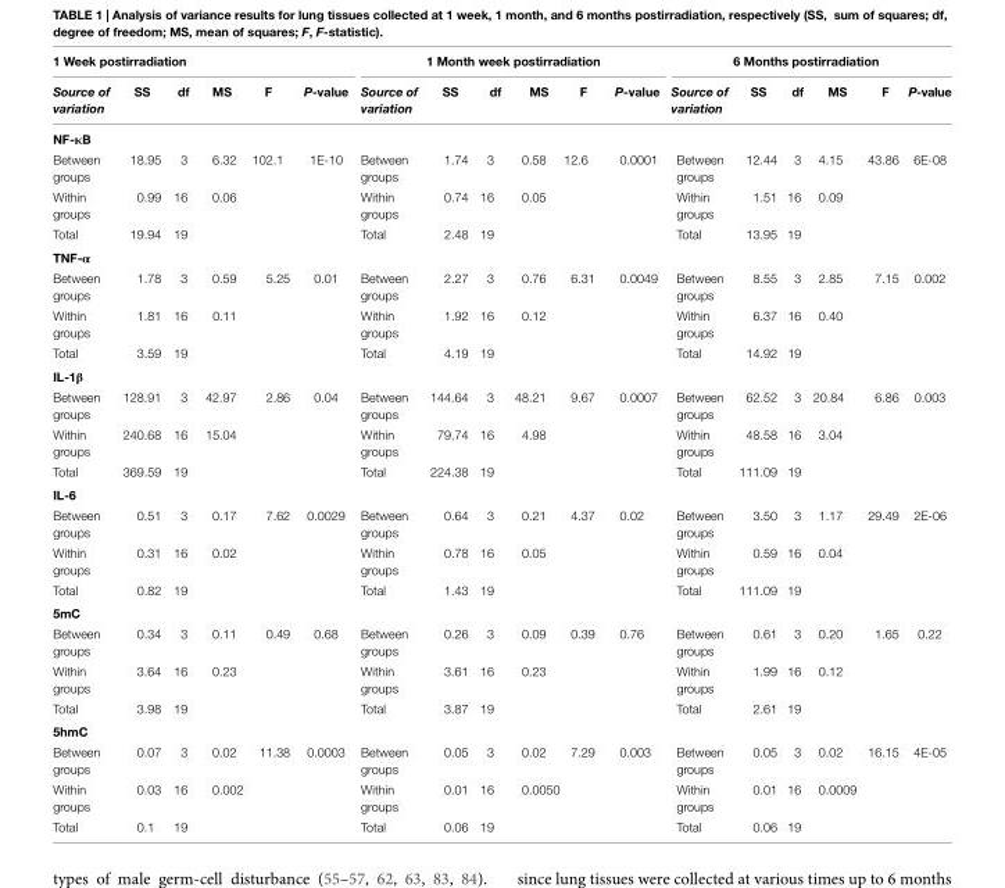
<table><thead><tr><td colspan="6">1 Week postirradiation</td><td colspan="6">1 Month week postirradiation</td><td colspan="6">6 Months postirradiation</td></tr><tr><td>Source of variation</td><td>ss</td><td>df</td><td>Ms</td><td>F</td><td>P-value</td><td>Source of variation</td><td>ss</td><td>df</td><td>Ms</td><td>F</td><td>P-value</td><td>Source of variation</td><td>ss</td><td>df</td><td>Ms</td><td>F</td><td>P-value</td></tr></thead><tbody><tr><td colspan="18">nF-ĸB</td></tr><tr><td>Between groups</td><td>18.95</td><td>3</td><td>6.32</td><td>102.1</td><td>1E-10</td><td>Between groups</td><td>1.74</td><td>3</td><td>0.58</td><td>12.6</td><td>0.0001</td><td>Between groups</td><td>12.44</td><td>3</td><td>4.15</td><td>43.86</td><td>6E-08</td></tr><tr><td>Within groups</td><td>0.99</td><td>16</td><td>0.06</td><td></td><td></td><td>Within groups</td><td>0.74</td><td>16</td><td>0.05</td><td></td><td></td><td>Within groups</td><td>1.51</td><td>16</td><td>0.09</td><td></td><td></td></tr><tr><td>Total</td><td>19.94</td><td>19</td><td></td><td></td><td></td><td>Total</td><td>2.48</td><td>19</td><td></td><td></td><td></td><td>Total</td><td>13.95</td><td>19</td><td></td><td></td><td></td></tr><tr><td colspan="18">TnF-α</td></tr><tr><td>Between groups</td><td>1.78</td><td>3</td><td>0.59</td><td>5.25</td><td>0.01</td><td>Between groups</td><td>2.27</td><td>3</td><td>0.76</td><td>6.31</td><td>0.0049</td><td>Between groups</td><td>8.55</td><td>3</td><td>2.85</td><td>7.15</td><td>0.002</td></tr><tr><td>Within groups</td><td>1.81</td><td>16</td><td>0.11</td><td></td><td></td><td>Within groups</td><td>1.92</td><td>16</td><td>0.12</td><td></td><td></td><td>Within groups</td><td>6.37</td><td>16</td><td>0.40</td><td></td><td></td></tr><tr><td>Total</td><td>3.59</td><td>19</td><td></td><td></td><td></td><td>Total</td><td>4.19</td><td>19</td><td></td><td></td><td></td><td>Total</td><td>14.92</td><td>19</td><td></td><td></td><td></td></tr><tr><td colspan="18">il-1β</td></tr><tr><td>Between groups</td><td>128.91</td><td>3</td><td>42.97</td><td>2.86</td><td>0.04</td><td>Between groups</td><td>144.64</td><td>3</td><td>48.21</td><td>9.67</td><td>0.0007</td><td>Between groups</td><td>62.52</td><td>3</td><td>20.84</td><td>6.86</td><td>0.003</td></tr><tr><td>Within groups</td><td>240.68</td><td>16</td><td>15.04</td><td></td><td></td><td>Within groups</td><td>79.74</td><td>16</td><td>4.98</td><td></td><td></td><td>Within groups</td><td>48.58</td><td>16</td><td>3.04</td><td></td><td></td></tr><tr><td>Total</td><td>369.59</td><td>19</td><td></td><td></td><td></td><td>Total</td><td>224.38</td><td>19</td><td></td><td></td><td></td><td>Total</td><td>111.09</td><td>19</td><td></td><td></td><td></td></tr><tr><td colspan="18">il-6</td></tr><tr><td>Between groups</td><td>0.51</td><td>3</td><td>0.17</td><td>7.62</td><td>0.0029</td><td>Between groups</td><td>0.64</td><td>3</td><td>0.21</td><td>4.37</td><td>0.02</td><td>Between groups</td><td>3.50</td><td>3</td><td>1.17</td><td>29.49</td><td>2E-06</td></tr><tr><td>Within groups</td><td>0.31</td><td>16</td><td>0.02</td><td></td><td></td><td>Within groups</td><td>0.78</td><td>16</td><td>0.05</td><td></td><td></td><td>Within groups</td><td>0.59</td><td>16</td><td>0.04</td><td></td><td></td></tr><tr><td>Total</td><td>0.82</td><td>19</td><td></td><td></td><td></td><td>Total</td><td>1.43</td><td>19</td><td></td><td></td><td></td><td>Total</td><td>111.09</td><td>19</td><td></td><td></td><td></td></tr><tr><td colspan="18">5mc</td></tr><tr><td>Between groups</td><td>0.34</td><td>3</td><td>0.11</td><td>0.49</td><td>0.68</td><td>Between groups</td><td>0.26</td><td>3</td><td>0.09</td><td>0.39</td><td>0.76</td><td>Between groups</td><td>0.61</td><td>3</td><td>0.20</td><td>1.65</td><td>0.22</td></tr><tr><td>Within groups</td><td>3.64</td><td>16</td><td>0.23</td><td></td><td></td><td>Within groups</td><td>3.61</td><td>16</td><td>0.23</td><td></td><td></td><td>Within groups</td><td>1.99</td><td>16</td><td>0.12</td><td></td><td></td></tr><tr><td>Total</td><td>3.98</td><td>19</td><td></td><td></td><td></td><td>Total</td><td>3.87</td><td>19</td><td></td><td></td><td></td><td>Total</td><td>2.61</td><td>19</td><td></td><td></td><td></td></tr><tr><td colspan="18">5hmc</td></tr><tr><td>Between groups</td><td>0.07</td><td>3</td><td>0.02</td><td>11.38</td><td>0.0003</td><td>Between groups</td><td>0.05</td><td>3</td><td>0.02</td><td>7.29</td><td>0.003</td><td>Between groups</td><td>0.05</td><td>3</td><td>0.02</td><td>16.15</td><td>4E-05</td></tr><tr><td>Within groups</td><td>0.03</td><td>16</td><td>0.002</td><td></td><td></td><td>Within groups</td><td>0.01</td><td>16</td><td>0.0050</td><td></td><td></td><td>Within groups</td><td>0.01</td><td>16</td><td>0.0009</td><td></td><td></td></tr><tr><td>Total</td><td>0.1</td><td>19</td><td></td><td></td><td></td><td>Total</td><td>0.06</td><td>19</td><td></td><td></td><td></td><td>Total</td><td>0.06</td><td>19</td><td></td><td></td><td></td></tr></tbody></table>